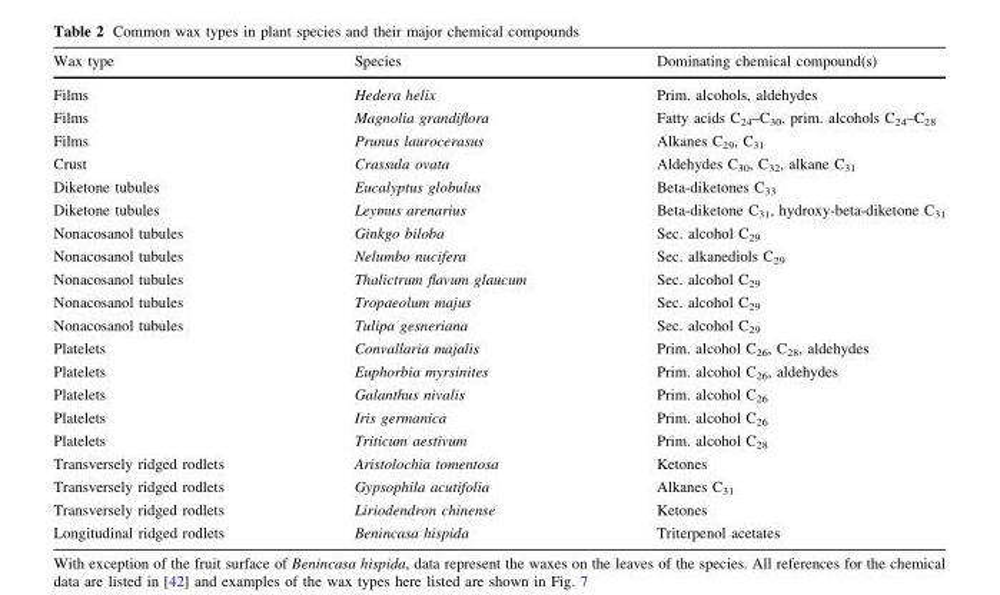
<table><thead><tr><td>Wax type</td><td>Species</td><td>Dominating chemical compound(s)</td></tr></thead><tbody><tr><td>Films</td><td>Hedera helix</td><td>Prim. alcohols, aldehydes</td></tr><tr><td>Films</td><td>Magnolia grandiflora</td><td>Fatty acids C<sub>24</sub>–C<sub>30</sub>, prim. alcohols C<sub>24</sub>–C<sub>28</sub></td></tr><tr><td>Films</td><td>Prunus laurocerasus</td><td>Alkanes C<sub>29</sub>, C<sub>31</sub></td></tr><tr><td>Crust</td><td>Crassula ovata</td><td>Aldehydes C<sub>30</sub>, C<sub>32</sub>, alkane C<sub>31</sub></td></tr><tr><td>Diketone tubules</td><td>Eucalyptus globulus</td><td>Beta-diketones C<sub>33</sub></td></tr><tr><td>Diketone tubules</td><td>Leymus arenarius</td><td>Beta-diketone C<sub>31</sub>, hydroxy-beta-diketone C<sub>31</sub></td></tr><tr><td>Nonacosanol tubules</td><td>Ginkgo biloba</td><td>Sec. alcohol C<sub>29</sub></td></tr><tr><td>Nonacosanol tubules</td><td>Nelumbo nucifera</td><td>Sec. alkanediols C<sub>29</sub></td></tr><tr><td>Nonacosanol tubules</td><td>Thalictrum flavum glaucum</td><td>Sec. alcohol C<sub>29</sub></td></tr><tr><td>Nonacosanol tubules</td><td>Tropaeolum majus</td><td>Sec. alcohol C<sub>29</sub></td></tr><tr><td>Nonacosanol tubules</td><td>Tulipa gesneriana</td><td>Sec. alcohol C<sub>29</sub></td></tr><tr><td>Platelets</td><td>Convallaria majalis</td><td>Prim. alcohol C<sub>26</sub>, C<sub>28</sub>, aldehydes</td></tr><tr><td>Platelets</td><td>Euphorbia myrsinites</td><td>Prim. alcohol C<sub>26</sub>, aldehydes</td></tr><tr><td>Platelets</td><td>Galanthus nivalis</td><td>Prim. alcohol C<sub>26</sub></td></tr><tr><td>Platelets</td><td>Iris germanica</td><td>Prim. alcohol C<sub>26</sub></td></tr><tr><td>Platelets</td><td>Triticum aestivum</td><td>Prim. alcohol C<sub>28</sub></td></tr><tr><td>Transversely ridged rodlets</td><td>Aristolochia tomentosa</td><td>Ketones</td></tr><tr><td>Transversely ridged rodlets</td><td>Gypsophila acutifolia</td><td>Alkanes C<sub>31</sub></td></tr><tr><td>Transversely ridged rodlets</td><td>Liriodendron chinense</td><td>Ketones</td></tr><tr><td>Longitudinal ridged rodlets</td><td>Benincasa hispida</td><td>Triterpenol acetates</td></tr></tbody></table>